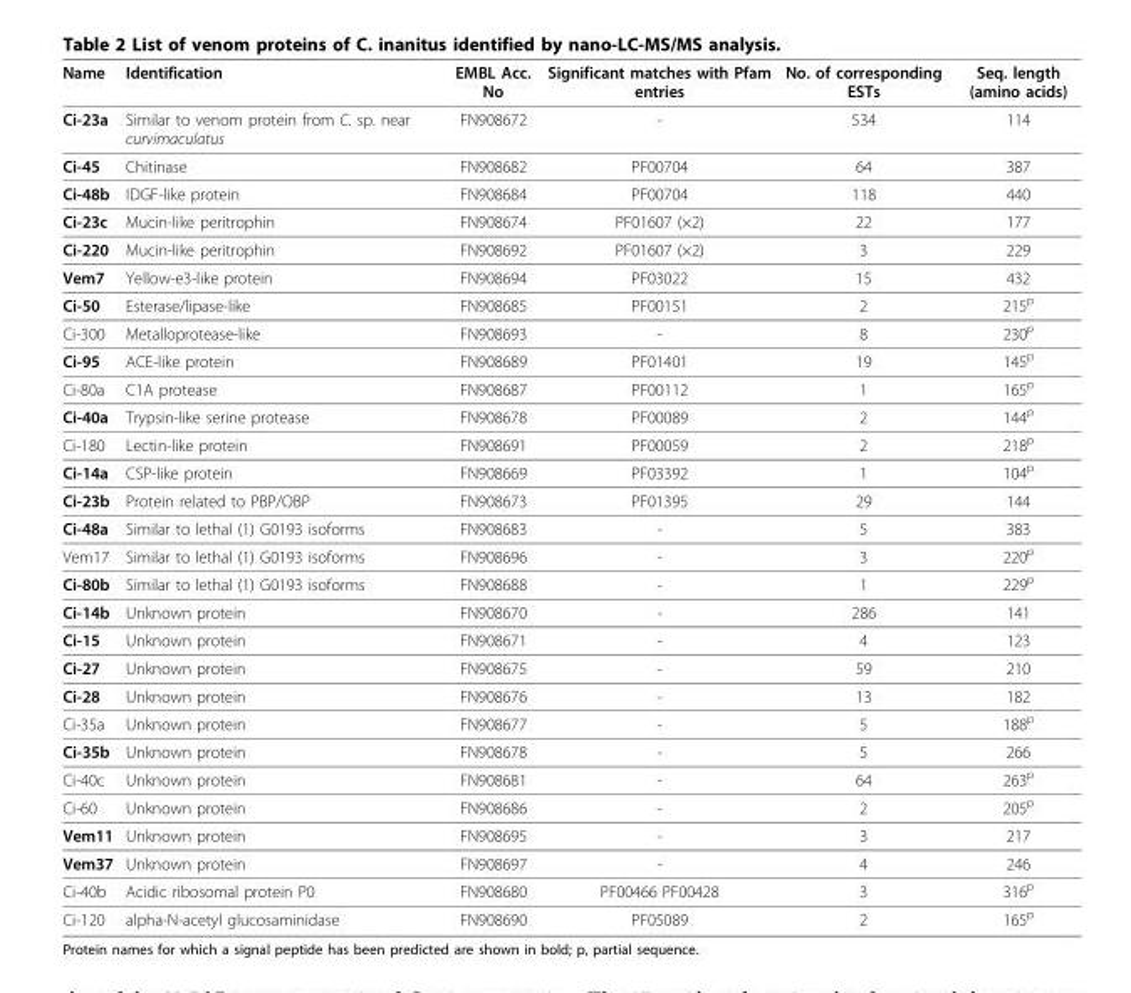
<table><thead><tr><td>Name</td><td>Identification</td><td>EMBL Acc. No</td><td>Significant matches with Pfam entries</td><td>No. of corresponding ESTs</td><td>Seq. length (amino acids)</td></tr></thead><tbody><tr><td>Ci-23a</td><td>Similar to venom protein from C. sp. near curvimaculatus</td><td>FN908672</td><td>-</td><td>534</td><td>114</td></tr><tr><td>Ci-45</td><td>Chitinase</td><td>FN908682</td><td>PF00704</td><td>64</td><td>387</td></tr><tr><td>Ci-48b</td><td>IDGF-like protein</td><td>FN908684</td><td>PF00704</td><td>118</td><td>440</td></tr><tr><td>Ci-23c</td><td>Mucin-like peritrophin</td><td>FN908674</td><td>PF01607 (×2)</td><td>22</td><td>177</td></tr><tr><td>Ci-220</td><td>Mucin-like peritrophin</td><td>FN908692</td><td>PF01607 (×2)</td><td>3</td><td>229</td></tr><tr><td>Vem7</td><td>Yellow-e3-like protein</td><td>FN908694</td><td>PF03022</td><td>15</td><td>432</td></tr><tr><td>Ci-50</td><td>Esterase/lipase-like</td><td>FN908685</td><td>PF00151</td><td>2</td><td>215<sup>p</sup></td></tr><tr><td>Ci-300</td><td>Metalloprotease-like</td><td>FN908693</td><td>-</td><td>8</td><td>230<sup>p</sup></td></tr><tr><td>Ci-95</td><td>ACE-like protein</td><td>FN908689</td><td>PF01401</td><td>19</td><td>145<sup>p</sup></td></tr><tr><td>Ci-80a</td><td>C1A protease</td><td>FN908687</td><td>PF00112</td><td>1</td><td>165<sup>p</sup></td></tr><tr><td>Ci-40a</td><td>Trypsin-like serine protease</td><td>FN908678</td><td>PF00089</td><td>2</td><td>144<sup>p</sup></td></tr><tr><td>Ci-180</td><td>Lectin-like protein</td><td>FN908691</td><td>PF00059</td><td>2</td><td>218<sup>p</sup></td></tr><tr><td>Ci-14a</td><td>CSP-like protein</td><td>FN908669</td><td>PF03392</td><td>1</td><td>104<sup>p</sup></td></tr><tr><td>Ci-23b</td><td>Protein related to PBP/OBP</td><td>FN908673</td><td>PF01395</td><td>29</td><td>144</td></tr><tr><td>Ci-48a</td><td>Similar to lethal (1) G0193 isoforms</td><td>FN908683</td><td>-</td><td>5</td><td>383</td></tr><tr><td>Vem17</td><td>Similar to lethal (1) G0193 isoforms</td><td>FN908696</td><td>-</td><td>3</td><td>220<sup>p</sup></td></tr><tr><td>Ci-80b</td><td>Similar to lethal (1) G0193 isoforms</td><td>FN908688</td><td>-</td><td>1</td><td>229<sup>p</sup></td></tr><tr><td>Ci-14b</td><td>Unknown protein</td><td>FN908670</td><td>-</td><td>286</td><td>141</td></tr><tr><td>Ci-15</td><td>Unknown protein</td><td>FN908671</td><td>-</td><td>4</td><td>123</td></tr><tr><td>Ci-27</td><td>Unknown protein</td><td>FN908675</td><td>-</td><td>59</td><td>210</td></tr><tr><td>Ci-28</td><td>Unknown protein</td><td>FN908676</td><td>-</td><td>13</td><td>182</td></tr><tr><td>Ci-35a</td><td>Unknown protein</td><td>FN908677</td><td>-</td><td>5</td><td>188<sup>p</sup></td></tr><tr><td>Ci-35b</td><td>Unknown protein</td><td>FN908678</td><td>-</td><td>5</td><td>266</td></tr><tr><td>Ci-40c</td><td>Unknown protein</td><td>FN908681</td><td>-</td><td>64</td><td>263<sup>p</sup></td></tr><tr><td>Ci-60</td><td>Unknown protein</td><td>FN908686</td><td>-</td><td>2</td><td>205<sup>p</sup></td></tr><tr><td>Vem11</td><td>Unknown protein</td><td>FN908695</td><td>-</td><td>3</td><td>217</td></tr><tr><td>Vem37</td><td>Unknown protein</td><td>FN908697</td><td>-</td><td>4</td><td>246</td></tr><tr><td>Ci-40b</td><td>Acidic ribosomal protein P0</td><td>FN908680</td><td>PF00466 PF00428</td><td>3</td><td>316<sup>p</sup></td></tr><tr><td>Ci-120</td><td>alpha-N-acetyl glucosaminidase</td><td>FN908690</td><td>PF05089</td><td>2</td><td>165<sup>p</sup></td></tr></tbody></table>